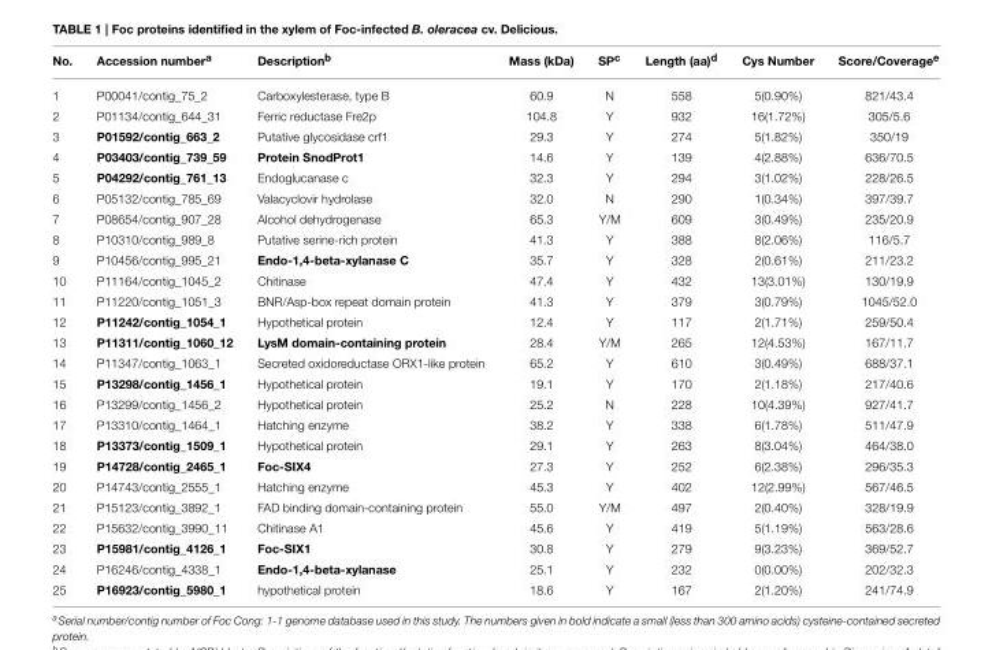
<table><thead><tr><td>No.</td><td>Accession number<sup>a</sup></td><td>Description<sup>b</sup></td><td>Mass (kDa)</td><td>SP<sup>c</sup></td><td>Length (aa)<sup>d</sup></td><td>Cys Number</td><td>Score/Coverage<sup>e</sup></td></tr></thead><tbody><tr><td>1</td><td>P00041/contig_75_2</td><td>Carboxylesterase, type B</td><td>60.9</td><td>N</td><td>558</td><td>5(0.90%)</td><td>821/43.4</td></tr><tr><td>2</td><td>P01134/contig_644_31</td><td>Ferric reductase Fre2p</td><td>104.8</td><td>Y</td><td>932</td><td>16(1.72%)</td><td>305/5.6</td></tr><tr><td>3</td><td>P01592/contig_663_2</td><td>Putative glycosidase crf1</td><td>29.3</td><td>Y</td><td>274</td><td>5(1.82%)</td><td>350/19</td></tr><tr><td>4</td><td>P03403/contig_739_59</td><td>Protein SnodProt1</td><td>14.6</td><td>Y</td><td>139</td><td>4(2.88%)</td><td>636/70.5</td></tr><tr><td>5</td><td>P04292/contig_761_13</td><td>Endoglucanase c</td><td>32.3</td><td>Y</td><td>294</td><td>3(1.02%)</td><td>228/26.5</td></tr><tr><td>6</td><td>P05132/contig_785_69</td><td>Valacyclovir hydrolase</td><td>32.0</td><td>N</td><td>290</td><td>1(0.34%)</td><td>397/39.7</td></tr><tr><td>7</td><td>P08654/contig_907_28</td><td>Alcohol dehydrogenase</td><td>65.3</td><td>Y/M</td><td>609</td><td>3(0.49%)</td><td>235/20.9</td></tr><tr><td>8</td><td>P10310/contig_989_8</td><td>Putative serine-rich protein</td><td>41.3</td><td>Y</td><td>388</td><td>8(2.06%)</td><td>116/5.7</td></tr><tr><td>9</td><td>P10456/contig_995_21</td><td>Endo-1,4-beta-xylanase C</td><td>35.7</td><td>Y</td><td>328</td><td>2(0.61%)</td><td>211/23.2</td></tr><tr><td>10</td><td>P11164/contig_1045_2</td><td>Chitinase</td><td>47.4</td><td>Y</td><td>432</td><td>13(3.01%)</td><td>130/19.9</td></tr><tr><td>11</td><td>P11220/contig_1051_3</td><td>BNR/Asp-box repeat domain protein</td><td>41.3</td><td>Y</td><td>379</td><td>3(0.79%)</td><td>1045/52.0</td></tr><tr><td>12</td><td>P11242/contig_1054_1</td><td>Hypothetical protein</td><td>12.4</td><td>Y</td><td>117</td><td>2(1.71%)</td><td>259/50.4</td></tr><tr><td>13</td><td>P11311/contig_1060_12</td><td>LysM domain-containing protein</td><td>28.4</td><td>Y/M</td><td>265</td><td>12(4.53%)</td><td>167/11.7</td></tr><tr><td>14</td><td>P11347/contig_1063_1</td><td>Secreted oxidoreductase ORX1-like protein</td><td>65.2</td><td>Y</td><td>610</td><td>3(0.49%)</td><td>688/37.1</td></tr><tr><td>15</td><td>P13298/contig_1456_1</td><td>Hypothetical protein</td><td>19.1</td><td>Y</td><td>170</td><td>2(1.18%)</td><td>217/40.6</td></tr><tr><td>16</td><td>P13299/contig_1456_2</td><td>Hypothetical protein</td><td>25.2</td><td>N</td><td>228</td><td>10(4.39%)</td><td>927/41.7</td></tr><tr><td>17</td><td>P13310/contig_1464_1</td><td>Hatching enzyme</td><td>38.2</td><td>Y</td><td>338</td><td>6(1.78%)</td><td>511/47.9</td></tr><tr><td>18</td><td>P13373/contig_1509_1</td><td>Hypothetical protein</td><td>29.1</td><td>Y</td><td>263</td><td>8(3.04%)</td><td>464/38.0</td></tr><tr><td>19</td><td>P14728/contig_2465_1</td><td>Foc-SIX4</td><td>27.3</td><td>Y</td><td>252</td><td>6(2.38%)</td><td>296/35.3</td></tr><tr><td>20</td><td>P14743/contig_2555_1</td><td>Hatching enzyme</td><td>45.3</td><td>Y</td><td>402</td><td>12(2.99%)</td><td>567/46.5</td></tr><tr><td>21</td><td>P15123/contig_3892_1</td><td>FAD binding domain-containing protein</td><td>55.0</td><td>Y/M</td><td>497</td><td>2(0.40%)</td><td>328/19.9</td></tr><tr><td>22</td><td>P15632/contig_3990_11</td><td>Chitinase A1</td><td>45.6</td><td>Y</td><td>419</td><td>5(1.19%)</td><td>563/28.6</td></tr><tr><td>23</td><td>P15981/contig_4126_1</td><td>Foc-SIX1</td><td>30.8</td><td>Y</td><td>279</td><td>9(3.23%)</td><td>369/52.7</td></tr><tr><td>24</td><td>P16246/contig_4338_1</td><td>Endo-1,4-beta-xylanase</td><td>25.1</td><td>Y</td><td>232</td><td>0(0.00%)</td><td>202/32.3</td></tr><tr><td>25</td><td>P16923/contig_5980_1</td><td>hypothetical protein</td><td>18.6</td><td>Y</td><td>167</td><td>2(1.20%)</td><td>241/74.9</td></tr></tbody></table>